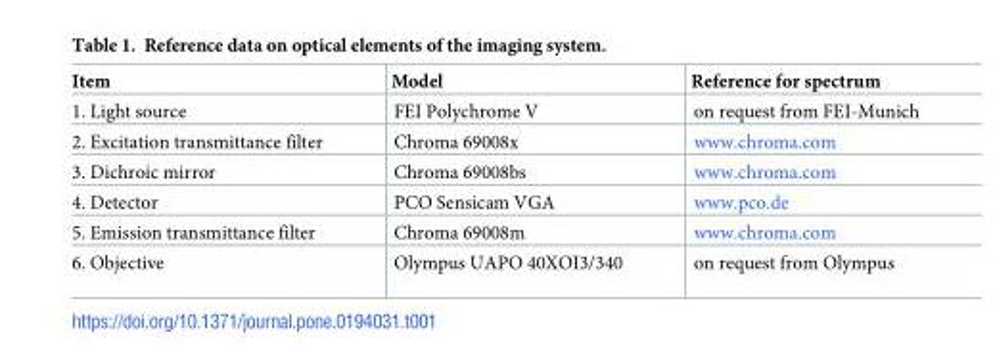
<table><thead><tr><td>Item</td><td>Model</td><td>Reference for spectrum</td></tr></thead><tbody><tr><td>1. Light source</td><td>FEI Polychrome V</td><td>on request from FEI-Munich</td></tr><tr><td>2. Excitation transmittance filter</td><td>Chroma 69008x</td><td>www.chroma.com</td></tr><tr><td>3. Dichroic mirror</td><td>Chroma 69008bs</td><td>www.chroma.com</td></tr><tr><td>4. Detector</td><td>PCO Sensicam VGA</td><td>www.pco.de</td></tr><tr><td>5. Emission transmittance filter</td><td>Chroma 69008m</td><td>www.chroma.com</td></tr><tr><td>6. Objective</td><td>Olympus UAPO 40XOI3/340</td><td>on request from Olympus</td></tr></tbody></table>